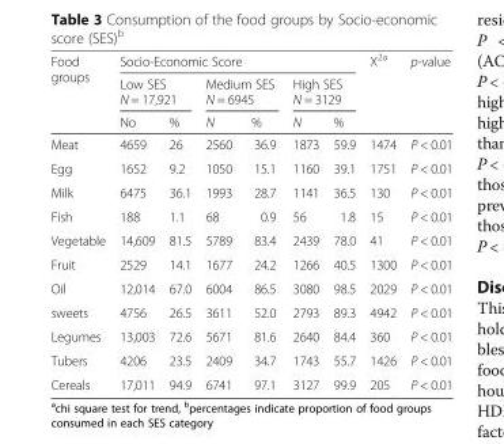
<table><thead><tr><td rowspan="3">Food groups</td><td colspan="6">Socio-Economic Score</td><td rowspan="3">X<sup>2a</sup></td><td rowspan="3">p-value</td></tr><tr><td colspan="2">Low SES N = 17,921</td><td colspan="2">Medium SES N = 6945</td><td colspan="2">High SES N = 3129</td></tr><tr><td>No</td><td>%</td><td>N</td><td>%</td><td>N</td><td>%</td></tr></thead><tbody><tr><td>Meat</td><td>4659</td><td>26</td><td>2560</td><td>36.9</td><td>1873</td><td>59.9</td><td>1474</td><td>P &lt; 0.01</td></tr><tr><td>Egg</td><td>1652</td><td>9.2</td><td>1050</td><td>15.1</td><td>1160</td><td>39.1</td><td>1751</td><td>P &lt; 0.01</td></tr><tr><td>Milk</td><td>6475</td><td>36.1</td><td>1993</td><td>28.7</td><td>1141</td><td>36.5</td><td>130</td><td>P &lt; 0.01</td></tr><tr><td>Fish</td><td>188</td><td>1.1</td><td>68</td><td>0.9</td><td>56</td><td>1.8</td><td>15</td><td>P &lt; 0.01</td></tr><tr><td>Vegetable</td><td>14,609</td><td>81.5</td><td>5789</td><td>83.4</td><td>2439</td><td>78.0</td><td>41</td><td>P &lt; 0.01</td></tr><tr><td>Fruit</td><td>2529</td><td>14.1</td><td>1677</td><td>24.2</td><td>1266</td><td>40.5</td><td>1300</td><td>P &lt; 0.01</td></tr><tr><td>Oil</td><td>12,014</td><td>67.0</td><td>6004</td><td>86.5</td><td>3080</td><td>98.5</td><td>2029</td><td>P &lt; 0.01</td></tr><tr><td>sweets</td><td>4756</td><td>26.5</td><td>3611</td><td>52.0</td><td>2793</td><td>89.3</td><td>4942</td><td>P &lt; 0.01</td></tr><tr><td>Legumes</td><td>13,003</td><td>72.6</td><td>5671</td><td>81.6</td><td>2640</td><td>84.4</td><td>360</td><td>P &lt; 0.01</td></tr><tr><td>Tubers</td><td>4206</td><td>23.5</td><td>2409</td><td>34.7</td><td>1743</td><td>55.7</td><td>1426</td><td>P &lt; 0.01</td></tr><tr><td>Cereals</td><td>17,011</td><td>94.9</td><td>6741</td><td>97.1</td><td>3127</td><td>99.9</td><td>205</td><td>P &lt; 0.01</td></tr></tbody></table>